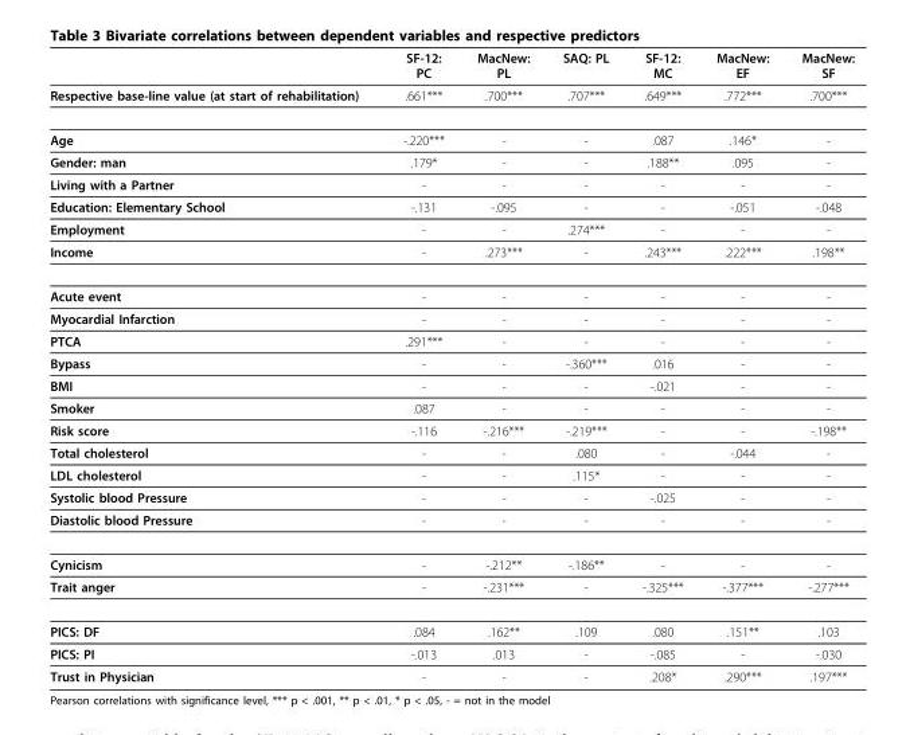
<table><thead><tr><td></td><td>SF-12: PC</td><td>MacNew: PL</td><td>SAQ: PL</td><td>SF-12: MC</td><td>MacNew: EF</td><td>MacNew: SF</td></tr></thead><tbody><tr><td>Respective base-line value (at start of rehabilitation)</td><td>.661***</td><td>.700***</td><td>.707***</td><td>.649***</td><td>.772***</td><td>.700***</td></tr><tr><td>Age</td><td>-.220***</td><td>-</td><td>-</td><td>.087</td><td>.146*</td><td>-</td></tr><tr><td>Gender: man</td><td>.179*</td><td>-</td><td>-</td><td>.188**</td><td>.095</td><td>-</td></tr><tr><td>Living with a Partner</td><td>-</td><td>-</td><td>-</td><td>-</td><td>-</td><td>-</td></tr><tr><td>Education: Elementary School</td><td>-.131</td><td>-.095</td><td>-</td><td>-</td><td>-.051</td><td>-.048</td></tr><tr><td>Employment</td><td>-</td><td>-</td><td>.274***</td><td>-</td><td>-</td><td>-</td></tr><tr><td>Income</td><td>-</td><td>.273***</td><td>-</td><td>.243***</td><td>.222***</td><td>.198**</td></tr><tr><td>Acute event</td><td>-</td><td>-</td><td>-</td><td>-</td><td>-</td><td>-</td></tr><tr><td>Myocardial Infarction</td><td>-</td><td>-</td><td>-</td><td>-</td><td>-</td><td>-</td></tr><tr><td>PTCA</td><td>.291***</td><td>-</td><td>-</td><td>-</td><td>-</td><td>-</td></tr><tr><td>Bypass</td><td>-</td><td>-</td><td>-.360***</td><td>.016</td><td>-</td><td>-</td></tr><tr><td>BMI</td><td>-</td><td>-</td><td>-</td><td>-.021</td><td>-</td><td>-</td></tr><tr><td>Smoker</td><td>.087</td><td>-</td><td>-</td><td>-</td><td>-</td><td>-</td></tr><tr><td>Risk score</td><td>-.116</td><td>-.216***</td><td>-.219***</td><td>-</td><td>-</td><td>-.198**</td></tr><tr><td>Total cholesterol</td><td>-</td><td>-</td><td>.080</td><td>-</td><td>-.044</td><td>-</td></tr><tr><td>LDL cholesterol</td><td>-</td><td>-</td><td>.115*</td><td>-</td><td>-</td><td>-</td></tr><tr><td>Systolic blood Pressure</td><td>-</td><td>-</td><td>-</td><td>-.025</td><td>-</td><td>-</td></tr><tr><td>Diastolic blood Pressure</td><td>-</td><td>-</td><td>-</td><td>-</td><td>-</td><td>-</td></tr><tr><td>Cynicism</td><td>-</td><td>-.212**</td><td>-.186**</td><td>-</td><td>-</td><td>-</td></tr><tr><td>Trait anger</td><td>-</td><td>-.231***</td><td>-</td><td>-.325***</td><td>-.377***</td><td>-.277***</td></tr><tr><td>PICS: DF</td><td>.084</td><td>.162**</td><td>.109</td><td>.080</td><td>.151**</td><td>.103</td></tr><tr><td>PICS: PI</td><td>-.013</td><td>.013</td><td>-</td><td>-.085</td><td>-</td><td>-.030</td></tr><tr><td>Trust in Physician</td><td>-</td><td>-</td><td>-</td><td>.208*</td><td>.290***</td><td>.197***</td></tr></tbody></table>